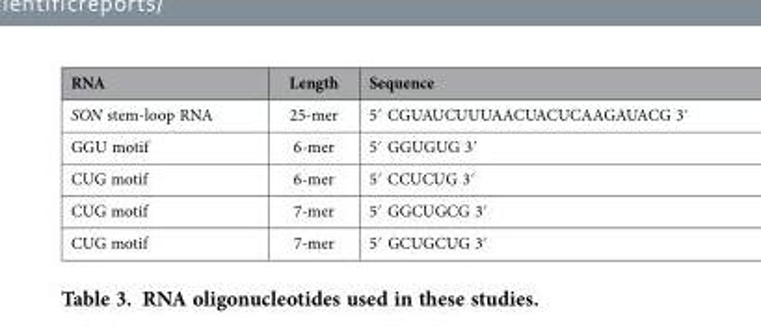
<table><thead><tr><td>RNA</td><td>Length</td><td>Sequence</td></tr></thead><tbody><tr><td>SON stem-loop RNA</td><td>25-mer</td><td>5′ CGUAUCUUUAACUACUCAAGAUACG 3′</td></tr><tr><td>GGU motif</td><td>6-mer</td><td>5′ GGUGUG 3′</td></tr><tr><td>CUG motif</td><td>6-mer</td><td>5′ CCUCUG 3′</td></tr><tr><td>CUG motif</td><td>7-mer</td><td>5′ GGCUGCG 3′</td></tr><tr><td>CUG motif</td><td>7-mer</td><td>5′ GCUGCUG 3′</td></tr></tbody></table>